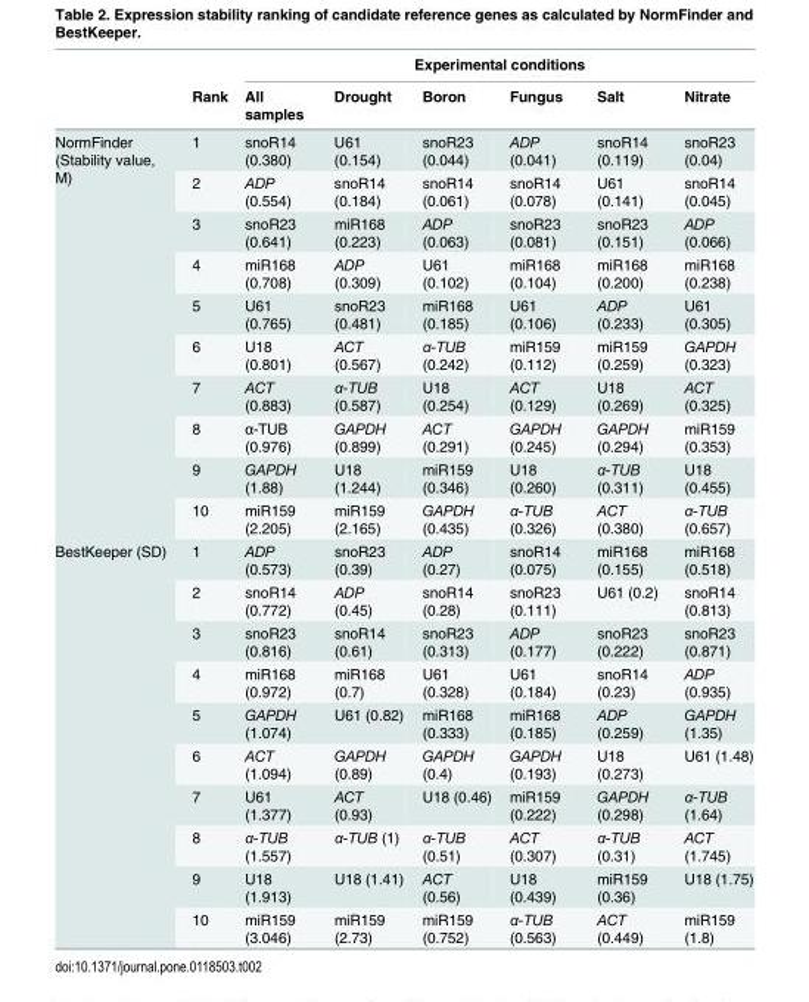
<table><thead><tr><td rowspan="2"></td><td rowspan="2">Rank</td><td colspan="6">Experimental conditions</td></tr><tr><td>All samples</td><td>Drought</td><td>Boron</td><td>Fungus</td><td>Salt</td><td>Nitrate</td></tr></thead><tbody><tr><td rowspan="10">NormFinder (Stability value, M)</td><td>1</td><td>snoR14 (0.380)</td><td>U61 (0.154)</td><td>snoR23 (0.044)</td><td>ADP (0.041)</td><td>snoR14 (0.119)</td><td>snoR23 (0.04)</td></tr><tr><td>2</td><td>ADP (0.554)</td><td>snoR14 (0.184)</td><td>snoR14 (0.061)</td><td>snoR14 (0.078)</td><td>U61 (0.141)</td><td>snoR14 (0.045)</td></tr><tr><td>3</td><td>snoR23 (0.641)</td><td>miR168 (0.223)</td><td>ADP (0.063)</td><td>snoR23 (0.081)</td><td>snoR23 (0.151)</td><td>ADP (0.066)</td></tr><tr><td>4</td><td>miR168 (0.708)</td><td>ADP (0.309)</td><td>U61 (0.102)</td><td>miR168 (0.104)</td><td>miR168 (0.200)</td><td>miR168 (0.238)</td></tr><tr><td>5</td><td>U61 (0.765)</td><td>snoR23 (0.481)</td><td>miR168 (0.185)</td><td>U61 (0.106)</td><td>ADP (0.233)</td><td>U61 (0.305)</td></tr><tr><td>6</td><td>U18 (0.801)</td><td>ACT (0.567)</td><td>α-TUB (0.242)</td><td>miR159 (0.112)</td><td>miR159 (0.259)</td><td>GAPDH (0.323)</td></tr><tr><td>7</td><td>ACT (0.883)</td><td>α-TUB (0.587)</td><td>U18 (0.254)</td><td>ACT (0.129)</td><td>U18 (0.269)</td><td>ACT (0.325)</td></tr><tr><td>8</td><td>α-TUB (0.976)</td><td>GAPDH (0.899)</td><td>ACT (0.291)</td><td>GAPDH (0.245)</td><td>GAPDH (0.294)</td><td>miR159 (0.353)</td></tr><tr><td>9</td><td>GAPDH (1.88)</td><td>U18 (1.244)</td><td>miR159 (0.346)</td><td>U18 (0.260)</td><td>α-TUB (0.311)</td><td>U18 (0.455)</td></tr><tr><td>10</td><td>miR159 (2.205)</td><td>miR159 (2.165)</td><td>GAPDH (0.435)</td><td>α-TUB (0.326)</td><td>ACT (0.380)</td><td>α-TUB (0.657)</td></tr><tr><td rowspan="10">BestKeeper (SD)</td><td>1</td><td>ADP (0.573)</td><td>snoR23 (0.39)</td><td>ADP (0.27)</td><td>snoR14 (0.075)</td><td>miR168 (0.155)</td><td>miR168 (0.518)</td></tr><tr><td>2</td><td>snoR14 (0.772)</td><td>ADP (0.45)</td><td>snoR14 (0.28)</td><td>snoR23 (0.111)</td><td>U61 (0.2)</td><td>snoR14 (0.813)</td></tr><tr><td>3</td><td>snoR23 (0.816)</td><td>snoR14 (0.61)</td><td>snoR23 (0.313)</td><td>ADP (0.177)</td><td>snoR23 (0.222)</td><td>snoR23 (0.871)</td></tr><tr><td>4</td><td>miR168 (0.972)</td><td>miR168 (0.7)</td><td>U61 (0.328)</td><td>U61 (0.184)</td><td>snoR14 (0.23)</td><td>ADP (0.935)</td></tr><tr><td>5</td><td>GAPDH (1.074)</td><td>U61 (0.82)</td><td>miR168 (0.333)</td><td>miR168 (0.185)</td><td>ADP (0.259)</td><td>GAPDH (1.35)</td></tr><tr><td>6</td><td>ACT (1.094)</td><td>GAPDH (0.89)</td><td>GAPDH (0.4)</td><td>GAPDH (0.193)</td><td>U18 (0.273)</td><td>U61 (1.48)</td></tr><tr><td>7</td><td>U61 (1.377)</td><td>ACT (0.93)</td><td>U18 (0.46)</td><td>miR159 (0.222)</td><td>GAPDH (0.298)</td><td>α-TUB (1.64)</td></tr><tr><td>8</td><td>α-TUB (1.557)</td><td>α-TUB (1)</td><td>α-TUB (0.51)</td><td>ACT (0.307)</td><td>α-TUB (0.31)</td><td>ACT (1.745)</td></tr><tr><td>9</td><td>U18 (1.913)</td><td>U18 (1.41)</td><td>ACT (0.56)</td><td>U18 (0.439)</td><td>miR159 (0.36)</td><td>U18 (1.75)</td></tr><tr><td>10</td><td>miR159 (3.046)</td><td>miR159 (2.73)</td><td>miR159 (0.752)</td><td>α-TUB (0.563)</td><td>ACT (0.449)</td><td>miR159 (1.8)</td></tr></tbody></table>